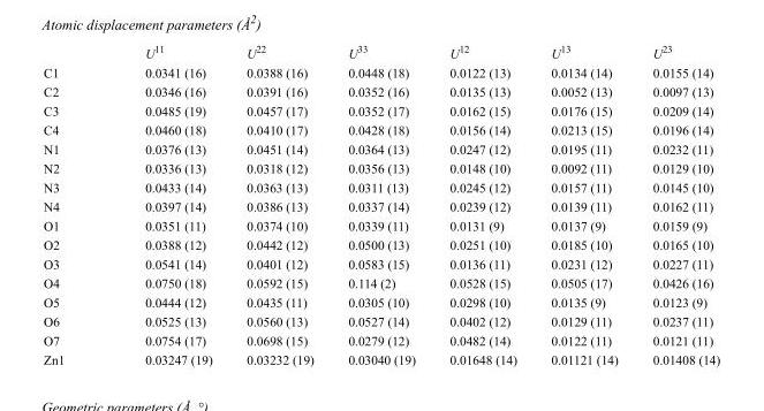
<table><thead><tr><td></td><td>U<sup>11</sup></td><td>U<sup>22</sup></td><td>U<sup>33</sup></td><td>U<sup>12</sup></td><td>U<sup>13</sup></td><td>U<sup>23</sup></td></tr></thead><tbody><tr><td>C1</td><td>0.0341 (16)</td><td>0.0388 (16)</td><td>0.0448 (18)</td><td>0.0122 (13)</td><td>0.0134 (14)</td><td>0.0155 (14)</td></tr><tr><td>C2</td><td>0.0346 (16)</td><td>0.0391 (16)</td><td>0.0352 (16)</td><td>0.0135 (13)</td><td>0.0052 (13)</td><td>0.0097 (13)</td></tr><tr><td>C3</td><td>0.0485 (19)</td><td>0.0457 (17)</td><td>0.0352 (17)</td><td>0.0162 (15)</td><td>0.0176 (15)</td><td>0.0209 (14)</td></tr><tr><td>C4</td><td>0.0460 (18)</td><td>0.0410 (17)</td><td>0.0428 (18)</td><td>0.0156 (14)</td><td>0.0213 (15)</td><td>0.0196 (14)</td></tr><tr><td>N1</td><td>0.0376 (13)</td><td>0.0451 (14)</td><td>0.0364 (13)</td><td>0.0247 (12)</td><td>0.0195 (11)</td><td>0.0232 (11)</td></tr><tr><td>N2</td><td>0.0336 (13)</td><td>0.0318 (12)</td><td>0.0356 (13)</td><td>0.0148 (10)</td><td>0.0092 (11)</td><td>0.0129 (10)</td></tr><tr><td>N3</td><td>0.0433 (14)</td><td>0.0363 (13)</td><td>0.0311 (13)</td><td>0.0245 (12)</td><td>0.0157 (11)</td><td>0.0145 (10)</td></tr><tr><td>N4</td><td>0.0397 (14)</td><td>0.0386 (13)</td><td>0.0337 (14)</td><td>0.0239 (12)</td><td>0.0139 (11)</td><td>0.0162 (11)</td></tr><tr><td>O1</td><td>0.0351 (11)</td><td>0.0374 (10)</td><td>0.0339 (11)</td><td>0.0131 (9)</td><td>0.0137 (9)</td><td>0.0159 (9)</td></tr><tr><td>O2</td><td>0.0388 (12)</td><td>0.0442 (12)</td><td>0.0500 (13)</td><td>0.0251 (10)</td><td>0.0185 (10)</td><td>0.0165 (10)</td></tr><tr><td>O3</td><td>0.0541 (14)</td><td>0.0401 (12)</td><td>0.0583 (15)</td><td>0.0136 (11)</td><td>0.0231 (12)</td><td>0.0227 (11)</td></tr><tr><td>O4</td><td>0.0750 (18)</td><td>0.0592 (15)</td><td>0.114 (2)</td><td>0.0528 (15)</td><td>0.0505 (17)</td><td>0.0426 (16)</td></tr><tr><td>O5</td><td>0.0444 (12)</td><td>0.0435 (11)</td><td>0.0305 (10)</td><td>0.0298 (10)</td><td>0.0135 (9)</td><td>0.0123 (9)</td></tr><tr><td>O6</td><td>0.0525 (13)</td><td>0.0560 (13)</td><td>0.0527 (14)</td><td>0.0402 (12)</td><td>0.0129 (11)</td><td>0.0237 (11)</td></tr><tr><td>O7</td><td>0.0754 (17)</td><td>0.0698 (15)</td><td>0.0279 (12)</td><td>0.0482 (14)</td><td>0.0122 (11)</td><td>0.0121 (11)</td></tr><tr><td>Zn1</td><td>0.03247 (19)</td><td>0.03232 (19)</td><td>0.03040 (19)</td><td>0.01648 (14)</td><td>0.01121 (14)</td><td>0.01408 (14)</td></tr></tbody></table>